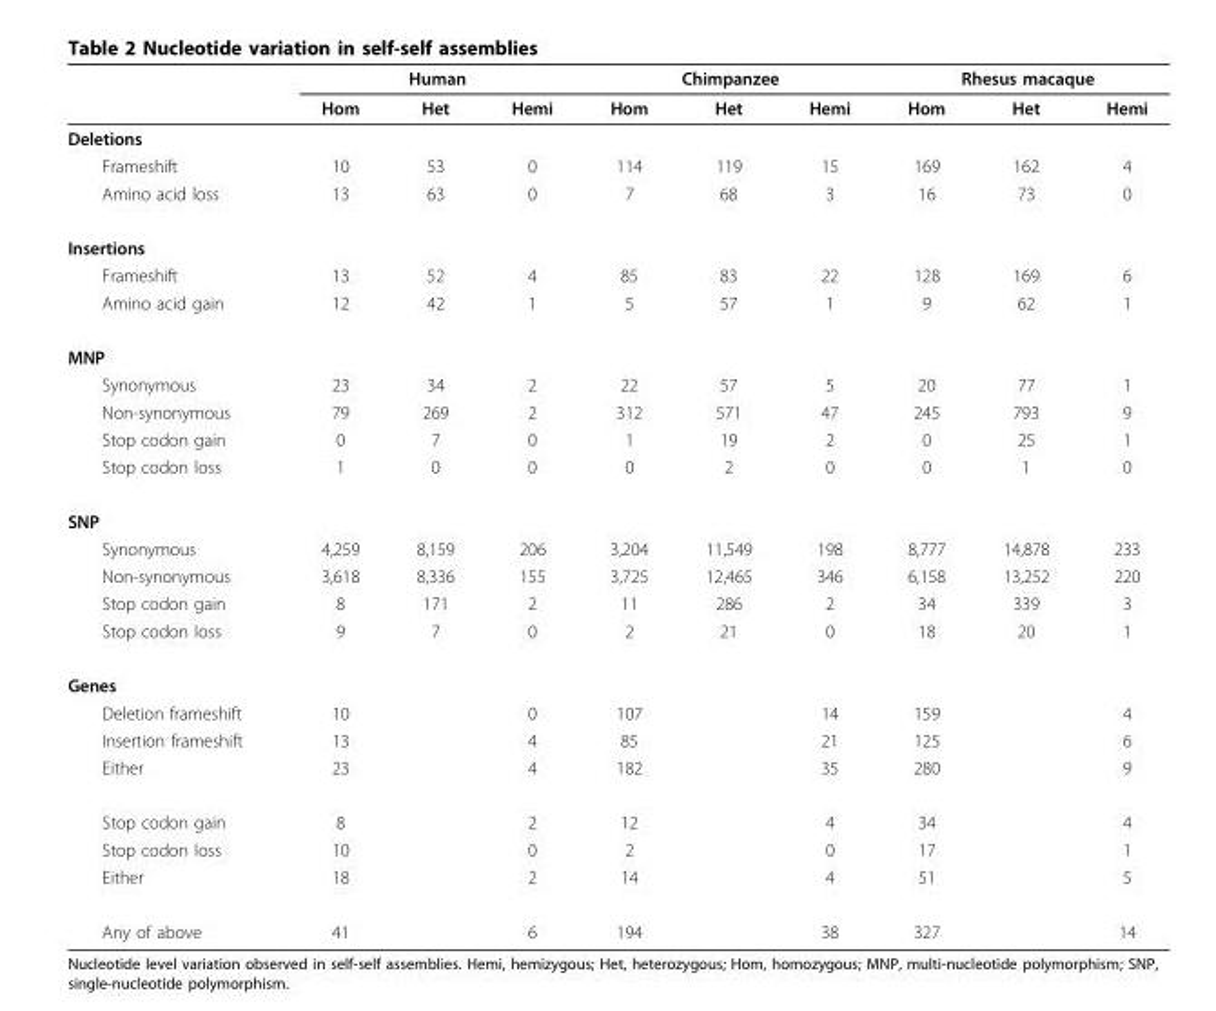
<table><thead><tr><td rowspan="2"></td><td colspan="3">Human</td><td colspan="3">Chimpanzee</td><td colspan="3">Rhesus macaque</td></tr><tr><td>Hom</td><td>Het</td><td>Hemi</td><td>Hom</td><td>Het</td><td>Hemi</td><td>Hom</td><td>Het</td><td>Hemi</td></tr></thead><tbody><tr><td colspan="10">Deletions</td></tr><tr><td>Frameshift</td><td>10</td><td>53</td><td>0</td><td>114</td><td>119</td><td>15</td><td>169</td><td>162</td><td>4</td></tr><tr><td>Amino acid loss</td><td>13</td><td>63</td><td>0</td><td>7</td><td>68</td><td>3</td><td>16</td><td>73</td><td>0</td></tr><tr><td colspan="10">Insertions</td></tr><tr><td>Frameshift</td><td>13</td><td>52</td><td>4</td><td>85</td><td>83</td><td>22</td><td>128</td><td>169</td><td>6</td></tr><tr><td>Amino acid gain</td><td>12</td><td>42</td><td>1</td><td>5</td><td>57</td><td>1</td><td>9</td><td>62</td><td>1</td></tr><tr><td colspan="10">MNP</td></tr><tr><td>Synonymous</td><td>23</td><td>34</td><td>2</td><td>22</td><td>57</td><td>5</td><td>20</td><td>77</td><td>1</td></tr><tr><td>Non-synonymous</td><td>79</td><td>269</td><td>2</td><td>312</td><td>571</td><td>47</td><td>245</td><td>793</td><td>9</td></tr><tr><td>Stop codon gain</td><td>0</td><td>7</td><td>0</td><td>1</td><td>19</td><td>2</td><td>0</td><td>25</td><td>1</td></tr><tr><td>Stop codon loss</td><td>1</td><td>0</td><td>0</td><td>0</td><td>2</td><td>0</td><td>0</td><td>1</td><td>0</td></tr><tr><td colspan="10">SNP</td></tr><tr><td>Synonymous</td><td>4,259</td><td>8,159</td><td>206</td><td>3,204</td><td>11,549</td><td>198</td><td>8,777</td><td>14,878</td><td>233</td></tr><tr><td>Non-synonymous</td><td>3,618</td><td>8,336</td><td>155</td><td>3,725</td><td>12,465</td><td>346</td><td>6,158</td><td>13,252</td><td>220</td></tr><tr><td>Stop codon gain</td><td>8</td><td>171</td><td>2</td><td>11</td><td>286</td><td>2</td><td>34</td><td>339</td><td>3</td></tr><tr><td>Stop codon loss</td><td>9</td><td>7</td><td>0</td><td>2</td><td>21</td><td>0</td><td>18</td><td>20</td><td>1</td></tr><tr><td colspan="10">Genes</td></tr><tr><td>Deletion frameshift</td><td>10</td><td></td><td>0</td><td>107</td><td></td><td>14</td><td>159</td><td></td><td>4</td></tr><tr><td>Insertion frameshift</td><td>13</td><td></td><td>4</td><td>85</td><td></td><td>21</td><td>125</td><td></td><td>6</td></tr><tr><td>Either</td><td>23</td><td></td><td>4</td><td>182</td><td></td><td>35</td><td>280</td><td></td><td>9</td></tr><tr><td>Stop codon gain</td><td>8</td><td></td><td>2</td><td>12</td><td></td><td>4</td><td>34</td><td></td><td>4</td></tr><tr><td>Stop codon loss</td><td>10</td><td></td><td>0</td><td>2</td><td></td><td>0</td><td>17</td><td></td><td>1</td></tr><tr><td>Either</td><td>18</td><td></td><td>2</td><td>14</td><td></td><td>4</td><td>51</td><td></td><td>5</td></tr><tr><td>Any of above</td><td>41</td><td></td><td>6</td><td>194</td><td></td><td>38</td><td>327</td><td></td><td>14</td></tr></tbody></table>